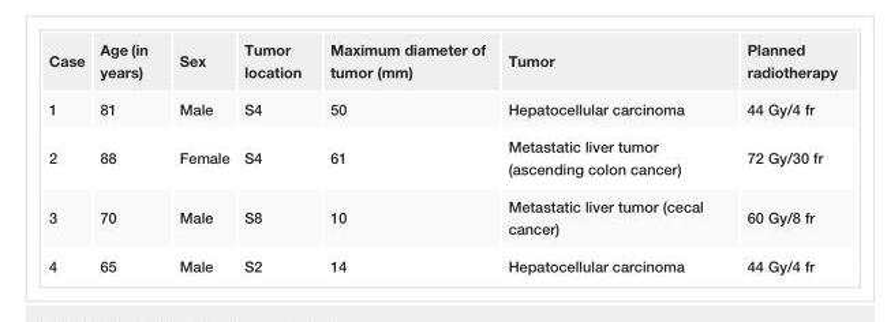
<table><tbody><tr><td>Case</td><td>Age (in years)</td><td>Sex</td><td>Tumor location</td><td>Maximum diameter of tumor (mm)</td><td>Tumor</td><td>Planned radiotherapy</td></tr><tr><td>1</td><td>81</td><td>Male</td><td>S4</td><td>50</td><td>Hepatocellular carcinoma</td><td>44 Gy/4 fr</td></tr><tr><td>2</td><td>88</td><td>Female</td><td>S4</td><td>61</td><td>Metastatic liver tumor (ascending colon cancer)</td><td>72 Gy/30 fr</td></tr><tr><td>3</td><td>70</td><td>Male</td><td>S8</td><td>10</td><td>Metastatic liver tumor (cecal cancer)</td><td>60 Gy/8 fr</td></tr><tr><td>4</td><td>65</td><td>Male</td><td>S2</td><td>14</td><td>Hepatocellular carcinoma</td><td>44 Gy/4 fr</td></tr></tbody></table>